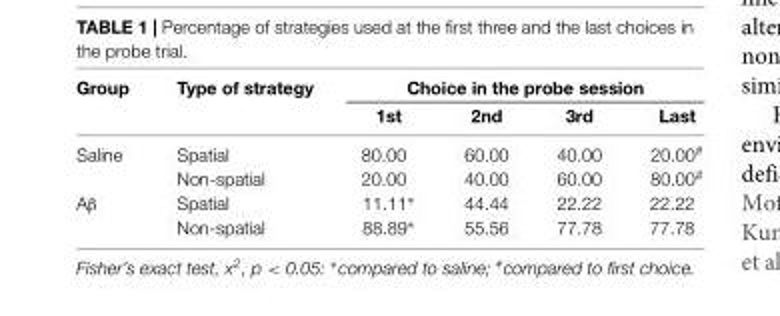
<table><thead><tr><td rowspan="2">Group</td><td rowspan="2">Type of strategy</td><td colspan="4">Choice in the probe session</td></tr><tr><td>1st</td><td>2nd</td><td>3rd</td><td>Last</td></tr></thead><tbody><tr><td rowspan="2">Saline</td><td>Spatial</td><td>80.00</td><td>60.00</td><td>40.00</td><td>20.00<sup>#</sup></td></tr><tr><td>Non-spatial</td><td>20.00</td><td>40.00</td><td>60.00</td><td>80.00<sup>#</sup></td></tr><tr><td rowspan="2">Aβ</td><td>Spatial</td><td>11.11∗</td><td>44.44</td><td>22.22</td><td>22.22</td></tr><tr><td>Non-spatial</td><td>88.89∗</td><td>55.56</td><td>77.78</td><td>77.78</td></tr></tbody></table>